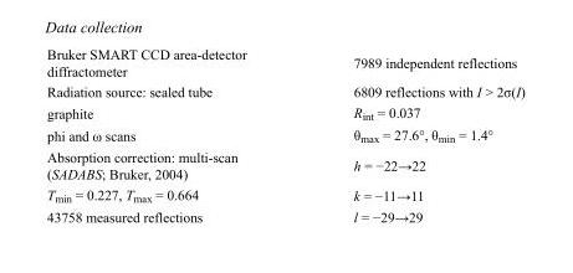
<table><tbody><tr><td>Bruker SMART CCD area-detector diffractometer</td><td>7989 independent reflections</td></tr><tr><td>Radiation source: sealed tube</td><td>6809 reflections with I &gt; 2σ(I)</td></tr><tr><td>graphite</td><td>R<sub>int</sub> = 0.037</td></tr><tr><td>phi and ω scans</td><td>θ<sub>max</sub> = 27.6°, θ<sub>min</sub> = 1.4°</td></tr><tr><td>Absorption correction: multi-scan (SADABS; Bruker, 2004)</td><td>h = −22→22</td></tr><tr><td>T<sub>min</sub> = 0.227, T<sub>max</sub> = 0.664</td><td>k = −11→11</td></tr><tr><td>43758 measured reflections</td><td>l = −29→29</td></tr></tbody></table>